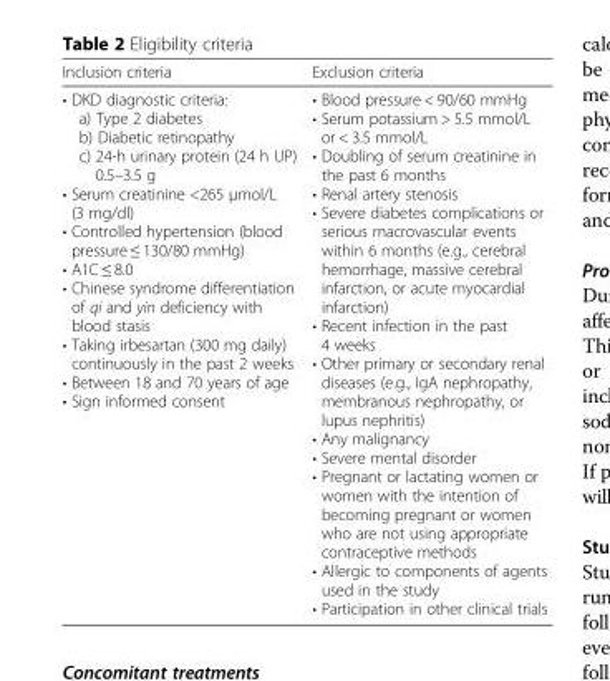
<table><thead><tr><td>Inclusion criteria</td><td>Exclusion criteria</td></tr></thead><tbody><tr><td>• DKD diagnostic criteria: a) Type 2 diabetes b) Diabetic retinopathy c) 24-h urinary protein (24 h UP) 0.5–3.5 g • Serum creatinine &lt;265 μmol/L (3 mg/dl) • Controlled hypertension (blood pressure ≤ 130/80 mmHg) • A1C ≤ 8.0 • Chinese syndrome differentiation of qi and yin deficiency with blood stasis • Taking irbesartan (300 mg daily) continuously in the past 2 weeks • Between 18 and 70 years of age • Sign informed consent</td><td>• Blood pressure &lt; 90/60 mmHg • Serum potassium &gt; 5.5 mmol/L or &lt; 3.5 mmol/L • Doubling of serum creatinine in the past 6 months • Renal artery stenosis • Severe diabetes complications or serious macrovascular events within 6 months (e.g., cerebral hemorrhage, massive cerebral infarction, or acute myocardial infarction) • Recent infection in the past 4 weeks • Other primary or secondary renal diseases (e.g., IgA nephropathy, membranous nephropathy, or lupus nephritis) • Any malignancy • Severe mental disorder • Pregnant or lactating women or women with the intention of becoming pregnant or women who are not using appropriate contraceptive methods • Allergic to components of agents used in the study • Participation in other clinical trials</td></tr></tbody></table>